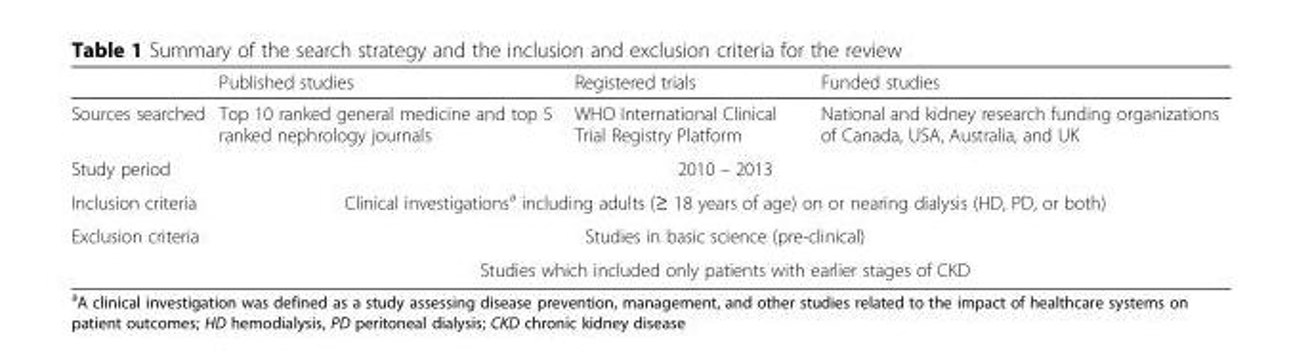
<table><thead><tr><td></td><td>Published studies</td><td>Registered trials</td><td>Funded studies</td></tr></thead><tbody><tr><td>Sources searched</td><td>Top 10 ranked general medicine and top 5 ranked nephrology journals</td><td>WHO International Clinical Trial Registry Platform</td><td>National and kidney research funding organizations of Canada, USA, Australia, and UK</td></tr><tr><td>Study period</td><td colspan="3">2010 – 2013</td></tr><tr><td>Inclusion criteria</td><td colspan="3">Clinical investigations<sup>a</sup> including adults (≥ 18 years of age) on or nearing dialysis (HD, PD, or both)</td></tr><tr><td rowspan="2">Exclusion criteria</td><td colspan="3">Studies in basic science (pre-clinical)</td></tr><tr><td colspan="3">Studies which included only patients with earlier stages of CKD</td></tr></tbody></table>